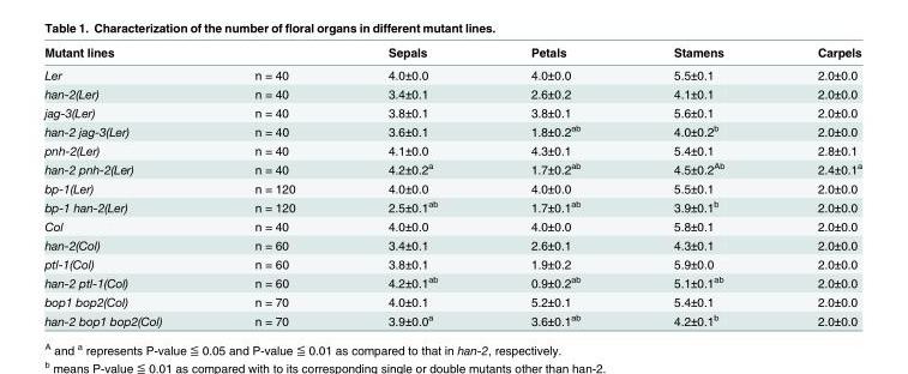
<table><thead><tr><td>Mutant lines</td><td></td><td>Sepals</td><td>Petals</td><td>Stamens</td><td>Carpels</td></tr></thead><tbody><tr><td>Ler</td><td>n = 40</td><td>4.0±0.0</td><td>4.0±0.0</td><td>5.5±0.1</td><td>2.0±0.0</td></tr><tr><td>han-2(Ler)</td><td>n = 40</td><td>3.4±0.1</td><td>2.6±0.2</td><td>4.1±0.1</td><td>2.0±0.0</td></tr><tr><td>jag-3(Ler)</td><td>n = 40</td><td>3.8±0.1</td><td>3.8±0.1</td><td>5.6±0.1</td><td>2.0±0.0</td></tr><tr><td>han-2 jag-3(Ler)</td><td>n = 40</td><td>3.6±0.1</td><td>1.8±0.2<sup>ab</sup></td><td>4.0±0.2<sup>b</sup></td><td>2.0±0.0</td></tr><tr><td>pnh-2(Ler)</td><td>n = 40</td><td>4.1±0.0</td><td>4.3±0.1</td><td>5.4±0.1</td><td>2.8±0.1</td></tr><tr><td>han-2 pnh-2(Ler)</td><td>n = 40</td><td>4.2±0.2<sup>a</sup></td><td>1.7±0.2<sup>ab</sup></td><td>4.5±0.2<sup>Ab</sup></td><td>2.4±0.1<sup>a</sup></td></tr><tr><td>bp-1(Ler)</td><td>n = 120</td><td>4.0±0.0</td><td>4.0±0.0</td><td>5.5±0.1</td><td>2.0±0.0</td></tr><tr><td>bp-1 han-2(Ler)</td><td>n = 120</td><td>2.5±0.1<sup>ab</sup></td><td>1.7±0.1<sup>ab</sup></td><td>3.9±0.1<sup>b</sup></td><td>2.0±0.0</td></tr><tr><td>Col</td><td>n = 40</td><td>4.0±0.0</td><td>4.0±0.0</td><td>5.8±0.1</td><td>2.0±0.0</td></tr><tr><td>han-2(Col)</td><td>n = 60</td><td>3.4±0.1</td><td>2.6±0.1</td><td>4.3±0.1</td><td>2.0±0.0</td></tr><tr><td>ptl-1(Col)</td><td>n = 60</td><td>3.8±0.1</td><td>1.9±0.2</td><td>5.9±0.0</td><td>2.0±0.0</td></tr><tr><td>han-2 ptl-1(Col)</td><td>n = 60</td><td>4.2±0.1<sup>ab</sup></td><td>0.9±0.2<sup>ab</sup></td><td>5.1±0.1<sup>ab</sup></td><td>2.0±0.0</td></tr><tr><td>bop1 bop2(Col)</td><td>n = 70</td><td>4.0±0.1</td><td>5.2±0.1</td><td>5.4±0.1</td><td>2.0±0.0</td></tr><tr><td>han-2 bop1 bop2(Col)</td><td>n = 70</td><td>3.9±0.0<sup>a</sup></td><td>3.6±0.1<sup>ab</sup></td><td>4.2±0.1<sup>b</sup></td><td>2.0±0.0</td></tr></tbody></table>